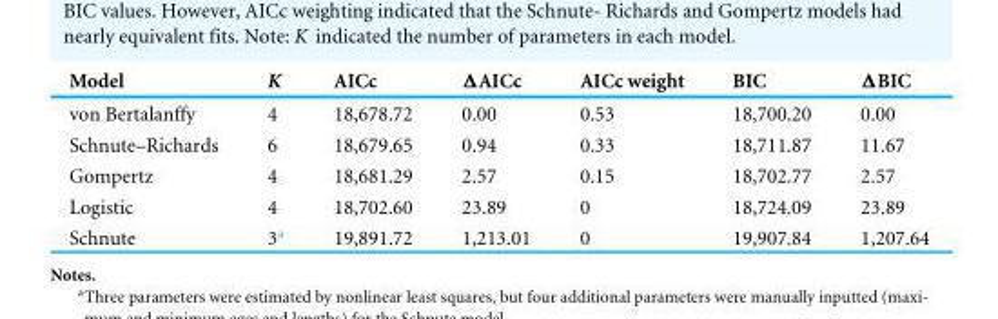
<table><thead><tr><td>Model</td><td>K</td><td>AICc</td><td>ΔAICc</td><td>AICc weight</td><td>BIC</td><td>ΔBIC</td></tr></thead><tbody><tr><td>von Bertalanffy</td><td>4</td><td>18,678.72</td><td>0.00</td><td>0.53</td><td>18,700.20</td><td>0.00</td></tr><tr><td>Schnute–Richards</td><td>6</td><td>18,679.65</td><td>0.94</td><td>0.33</td><td>18,711.87</td><td>11.67</td></tr><tr><td>Gompertz</td><td>4</td><td>18,681.29</td><td>2.57</td><td>0.15</td><td>18,702.77</td><td>2.57</td></tr><tr><td>Logistic</td><td>4</td><td>18,702.60</td><td>23.89</td><td>0</td><td>18,724.09</td><td>23.89</td></tr><tr><td>Schnute</td><td>3<sup>a</sup></td><td>19,891.72</td><td>1,213.01</td><td>0</td><td>19,907.84</td><td>1,207.64</td></tr></tbody></table>